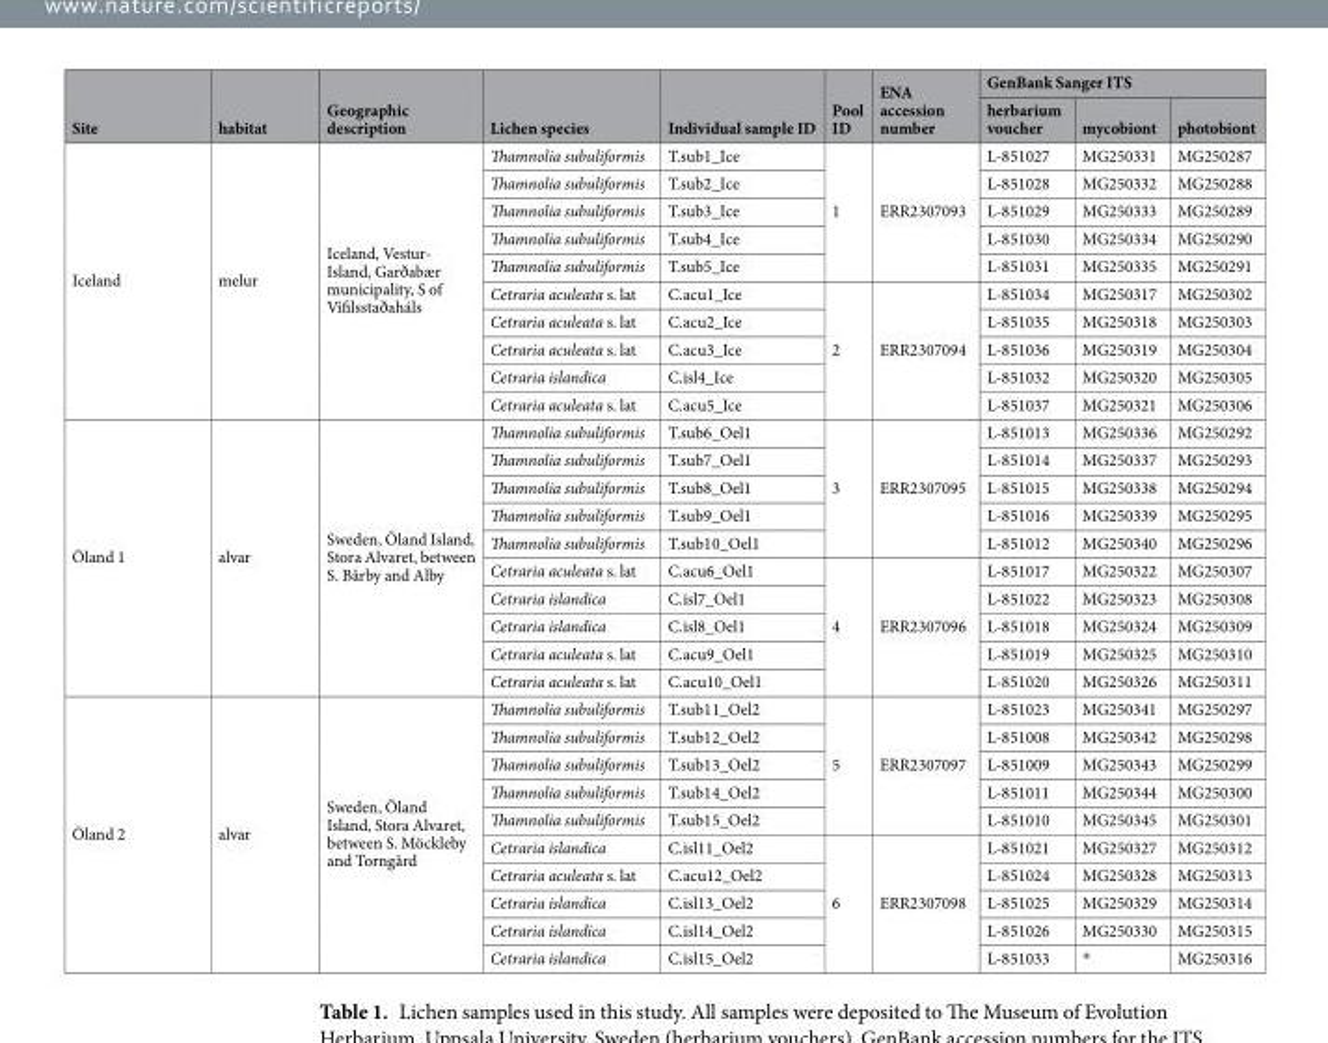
<table><thead><tr><td rowspan="2">Site</td><td rowspan="2">habitat</td><td rowspan="2">Geographic description</td><td rowspan="2">Lichen species</td><td rowspan="2">Individual sample ID</td><td rowspan="2">Pool ID</td><td rowspan="2">ENA accession number</td><td colspan="3">GenBank Sanger ITS</td></tr><tr><td>herbarium voucher</td><td>mycobiont</td><td>photobiont</td></tr></thead><tbody><tr><td rowspan="10">Iceland</td><td rowspan="10">melur</td><td rowspan="10">Iceland, Vestur- Island, Garðabær municipality, S of Vífilsstaðaháls</td><td>Thamnolia subuliformis</td><td>T.sub1_Ice</td><td rowspan="5">1</td><td rowspan="5">ERR2307093</td><td>L-851027</td><td>MG250331</td><td>MG250287</td></tr><tr><td>Thamnolia subuliformis</td><td>T.sub2_Ice</td><td>L-851028</td><td>MG250332</td><td>MG250288</td></tr><tr><td>Thamnolia subuliformis</td><td>T.sub3_Ice</td><td>L-851029</td><td>MG250333</td><td>MG250289</td></tr><tr><td>Thamnolia subuliformis</td><td>T.sub4_Ice</td><td>L-851030</td><td>MG250334</td><td>MG250290</td></tr><tr><td>Thamnolia subuliformis</td><td>T.sub5_Ice</td><td>L-851031</td><td>MG250335</td><td>MG250291</td></tr><tr><td>Cetraria aculeata s. lat</td><td>C.acu1_Ice</td><td rowspan="5">2</td><td rowspan="5">ERR2307094</td><td>L-851034</td><td>MG250317</td><td>MG250302</td></tr><tr><td>Cetraria aculeata s. lat</td><td>C.acu2_Ice</td><td>L-851035</td><td>MG250318</td><td>MG250303</td></tr><tr><td>Cetraria aculeata s. lat</td><td>C.acu3_Ice</td><td>L-851036</td><td>MG250319</td><td>MG250304</td></tr><tr><td>Cetraria islandica</td><td>C.isl4_Ice</td><td>L-851032</td><td>MG250320</td><td>MG250305</td></tr><tr><td>Cetraria aculeata s. lat</td><td>C.acu5_Ice</td><td>L-851037</td><td>MG250321</td><td>MG250306</td></tr><tr><td rowspan="10">Öland 1</td><td rowspan="10">alvar</td><td rowspan="10">Sweden, Öland Island, Stora Alvaret, between S. Bårby and Alby</td><td>Thamnolia subuliformis</td><td>T.sub6_Oel1</td><td rowspan="5">3</td><td rowspan="5">ERR2307095</td><td>L-851013</td><td>MG250336</td><td>MG250292</td></tr><tr><td>Thamnolia subuliformis</td><td>T.sub7_Oel1</td><td>L-851014</td><td>MG250337</td><td>MG250293</td></tr><tr><td>Thamnolia subuliformis</td><td>T.sub8_Oel1</td><td>L-851015</td><td>MG250338</td><td>MG250294</td></tr><tr><td>Thamnolia subuliformis</td><td>T.sub9_Oel1</td><td>L-851016</td><td>MG250339</td><td>MG250295</td></tr><tr><td>Thamnolia subuliformis</td><td>T.sub10_Oel1</td><td>L-851012</td><td>MG250340</td><td>MG250296</td></tr><tr><td>Cetraria aculeata s. lat</td><td>C.acu6_Oel1</td><td rowspan="5">4</td><td rowspan="5">ERR2307096</td><td>L-851017</td><td>MG250322</td><td>MG250307</td></tr><tr><td>Cetraria islandica</td><td>C.isl7_Oel1</td><td>L-851022</td><td>MG250323</td><td>MG250308</td></tr><tr><td>Cetraria islandica</td><td>C.isl8_Oel1</td><td>L-851018</td><td>MG250324</td><td>MG250309</td></tr><tr><td>Cetraria aculeata s. lat</td><td>C.acu9_Oel1</td><td>L-851019</td><td>MG250325</td><td>MG250310</td></tr><tr><td>Cetraria aculeata s. lat</td><td>C.acu10_Oel1</td><td>L-851020</td><td>MG250326</td><td>MG250311</td></tr><tr><td rowspan="10">Öland 2</td><td rowspan="10">alvar</td><td rowspan="10">Sweden, Öland Island, Stora Alvaret, between S. Möckleby and Torngård</td><td>Thamnolia subuliformis</td><td>T.sub11_Oel2</td><td rowspan="5">5</td><td rowspan="5">ERR2307097</td><td>L-851023</td><td>MG250341</td><td>MG250297</td></tr><tr><td>Thamnolia subuliformis</td><td>T.sub12_Oel2</td><td>L-851008</td><td>MG250342</td><td>MG250298</td></tr><tr><td>Thamnolia subuliformis</td><td>T.sub13_Oel2</td><td>L-851009</td><td>MG250343</td><td>MG250299</td></tr><tr><td>Thamnolia subuliformis</td><td>T.sub14_Oel2</td><td>L-851011</td><td>MG250344</td><td>MG250300</td></tr><tr><td>Thamnolia subuliformis</td><td>T.sub15_Oel2</td><td>L-851010</td><td>MG250345</td><td>MG250301</td></tr><tr><td>Cetraria islandica</td><td>C.isl11_Oel2</td><td rowspan="5">6</td><td rowspan="5">ERR2307098</td><td>L-851021</td><td>MG250327</td><td>MG250312</td></tr><tr><td>Cetraria aculeata s. lat</td><td>C.acu12_Oel2</td><td>L-851024</td><td>MG250328</td><td>MG250313</td></tr><tr><td>Cetraria islandica</td><td>C.isl13_Oel2</td><td>L-851025</td><td>MG250329</td><td>MG250314</td></tr><tr><td>Cetraria islandica</td><td>C.isl14_Oel2</td><td>L-851026</td><td>MG250330</td><td>MG250315</td></tr><tr><td>Cetraria islandica</td><td>C.isl15_Oel2</td><td>L-851033</td><td>*</td><td>MG250316</td></tr></tbody></table>